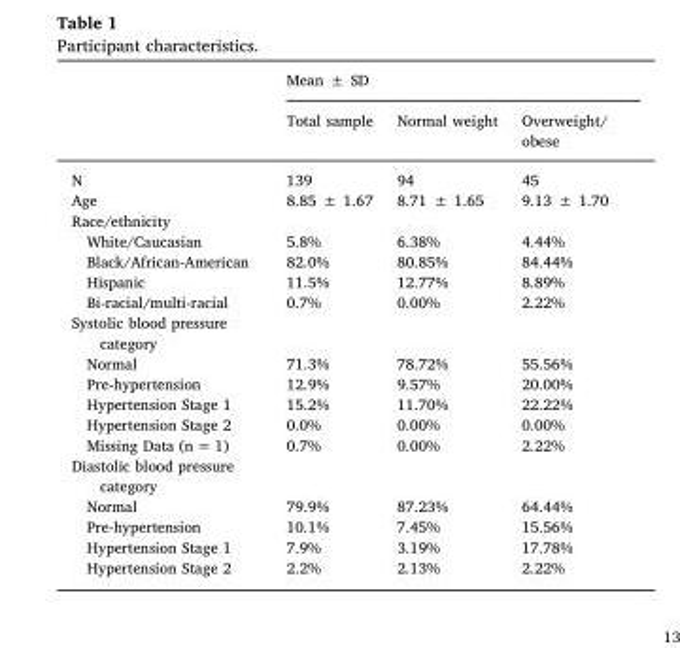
<table><thead><tr><td rowspan="2"></td><td colspan="3">Mean ± SD</td></tr><tr><td>Total sample</td><td>Normal weight</td><td>Overweight/ obese</td></tr></thead><tbody><tr><td>N</td><td>139</td><td>94</td><td>45</td></tr><tr><td>Age</td><td>8.85 ± 1.67</td><td>8.71 ± 1.65</td><td>9.13 ± 1.70</td></tr><tr><td colspan="4">Race/ethnicity</td></tr><tr><td>White/Caucasian</td><td>5.8%</td><td>6.38%</td><td>4.44%</td></tr><tr><td>Black/African-American</td><td>82.0%</td><td>80.85%</td><td>84.44%</td></tr><tr><td>Hispanic</td><td>11.5%</td><td>12.77%</td><td>8.89%</td></tr><tr><td>Bi-racial/multi-racial</td><td>0.7%</td><td>0.00%</td><td>2.22%</td></tr><tr><td colspan="4">Systolic blood pressure category</td></tr><tr><td>Normal</td><td>71.3%</td><td>78.72%</td><td>55.56%</td></tr><tr><td>Pre-hypertension</td><td>12.9%</td><td>9.57%</td><td>20.00%</td></tr><tr><td>Hypertension Stage 1</td><td>15.2%</td><td>11.70%</td><td>22.22%</td></tr><tr><td>Hypertension Stage 2</td><td>0.0%</td><td>0.00%</td><td>0.00%</td></tr><tr><td>Missing Data (n = 1)</td><td>0.7%</td><td>0.00%</td><td>2.22%</td></tr><tr><td colspan="4">Diastolic blood pressure category</td></tr><tr><td>Normal</td><td>79.9%</td><td>87.23%</td><td>64.44%</td></tr><tr><td>Pre-hypertension</td><td>10.1%</td><td>7.45%</td><td>15.56%</td></tr><tr><td>Hypertension Stage 1</td><td>7.9%</td><td>3.19%</td><td>17.78%</td></tr><tr><td>Hypertension Stage 2</td><td>2.2%</td><td>2.13%</td><td>2.22%</td></tr></tbody></table>